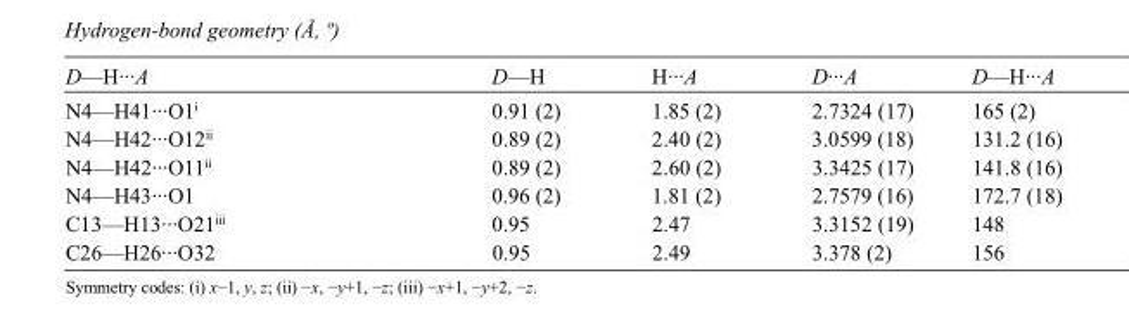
<table><tbody><tr><td>D—H···A</td><td>D—H</td><td>H···A</td><td>D···A</td><td>D—H···A</td></tr><tr><td>N4—H41···O1<sup>i</sup></td><td>0.91 (2)</td><td>1.85 (2)</td><td>2.7324 (17)</td><td>165 (2)</td></tr><tr><td>N4—H42···O12<sup>ii</sup></td><td>0.89 (2)</td><td>2.40 (2)</td><td>3.0599 (18)</td><td>131.2 (16)</td></tr><tr><td>N4—H42···O11<sup>ii</sup></td><td>0.89 (2)</td><td>2.60 (2)</td><td>3.3425 (17)</td><td>141.8 (16)</td></tr><tr><td>N4—H43···O1</td><td>0.96 (2)</td><td>1.81 (2)</td><td>2.7579 (16)</td><td>172.7 (18)</td></tr><tr><td>C13—H13···O21<sup>iii</sup></td><td>0.95</td><td>2.47</td><td>3.3152 (19)</td><td>148</td></tr><tr><td>C26—H26···O32</td><td>0.95</td><td>2.49</td><td>3.378 (2)</td><td>156</td></tr></tbody></table>